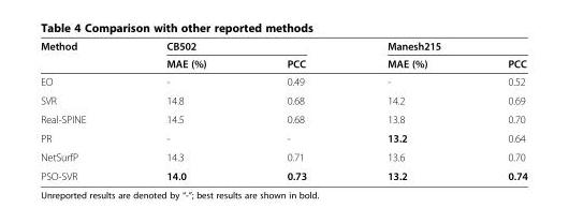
<table><thead><tr><td rowspan="2">Method</td><td colspan="2">CB502</td><td colspan="2">Manesh215</td></tr><tr><td>MAE (%)</td><td>PCC</td><td>MAE (%)</td><td>PCC</td></tr></thead><tbody><tr><td>EO</td><td>-</td><td>0.49</td><td>-</td><td>0.52</td></tr><tr><td>SVR</td><td>14.8</td><td>0.68</td><td>14.2</td><td>0.69</td></tr><tr><td>Real-SPINE</td><td>14.5</td><td>0.68</td><td>13.8</td><td>0.70</td></tr><tr><td>PR</td><td>-</td><td>-</td><td>13.2</td><td>0.64</td></tr><tr><td>NetSurfP</td><td>14.3</td><td>0.71</td><td>13.6</td><td>0.70</td></tr><tr><td>PSO-SVR</td><td>14.0</td><td>0.73</td><td>13.2</td><td>0.74</td></tr></tbody></table>